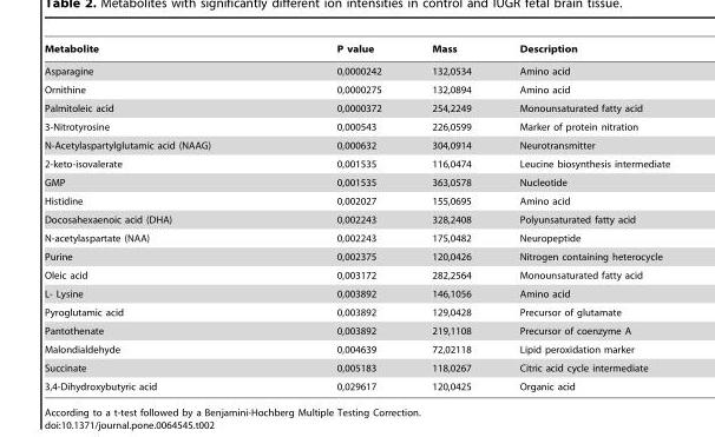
<table><thead><tr><td>Metabolite</td><td>P value</td><td>Mass</td><td>Description</td></tr></thead><tbody><tr><td>Asparagine</td><td>0,0000242</td><td>132,0534</td><td>Amino acid</td></tr><tr><td>Ornithine</td><td>0,0000275</td><td>132,0894</td><td>Amino acid</td></tr><tr><td>Palmitoleic acid</td><td>0,0000372</td><td>254,2249</td><td>Monounsaturated fatty acid</td></tr><tr><td>3-Nitrotyrosine</td><td>0,000543</td><td>226,0599</td><td>Marker of protein nitration</td></tr><tr><td>N-Acetylaspartylglutamic acid (NAAG)</td><td>0,000632</td><td>304,0914</td><td>Neurotransmitter</td></tr><tr><td>2-keto-isovalerate</td><td>0,001535</td><td>116,0474</td><td>Leucine biosynthesis intermediate</td></tr><tr><td>GMP</td><td>0,001535</td><td>363,0578</td><td>Nucleotide</td></tr><tr><td>Histidine</td><td>0,002027</td><td>155,0695</td><td>Amino acid</td></tr><tr><td>Docosahexaenoic acid (DHA)</td><td>0,002243</td><td>328,2408</td><td>Polyunsaturated fatty acid</td></tr><tr><td>N-acetylaspartate (NAA)</td><td>0,002243</td><td>175,0482</td><td>Neuropeptide</td></tr><tr><td>Purine</td><td>0,002375</td><td>120,0426</td><td>Nitrogen containing heterocycle</td></tr><tr><td>Oleic acid</td><td>0,003172</td><td>282,2564</td><td>Monounsaturated fatty acid</td></tr><tr><td>L- Lysine</td><td>0,003892</td><td>146,1056</td><td>Amino acid</td></tr><tr><td>Pyroglutamic acid</td><td>0,003892</td><td>129,0428</td><td>Precursor of glutamate</td></tr><tr><td>Pantothenate</td><td>0,003892</td><td>219,1108</td><td>Precursor of coenzyme A</td></tr><tr><td>Malondialdehyde</td><td>0,004639</td><td>72,02118</td><td>Lipid peroxidation marker</td></tr><tr><td>Succinate</td><td>0,005183</td><td>118,0267</td><td>Citric acid cycle intermediate</td></tr><tr><td>3,4-Dihydroxybutyric acid</td><td>0,029617</td><td>120,0425</td><td>Organic acid</td></tr></tbody></table>